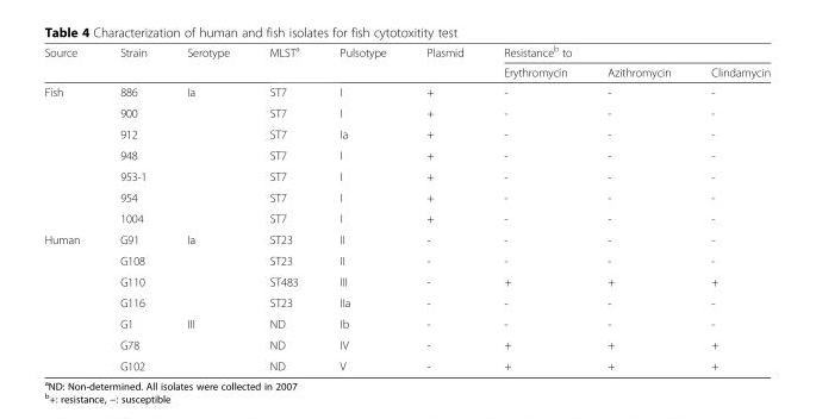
<table><thead><tr><td rowspan="2">Source</td><td rowspan="2">Strain</td><td rowspan="2">Serotype</td><td rowspan="2">MLST<sup>a</sup></td><td rowspan="2">Pulsotype</td><td rowspan="2">Plasmid</td><td colspan="3">Resistance<sup>b</sup> to</td></tr><tr><td>Erythromycin</td><td>Azithromycin</td><td>Clindamycin</td></tr></thead><tbody><tr><td rowspan="7">Fish</td><td>886</td><td rowspan="7">Ia</td><td>ST7</td><td>I</td><td>+</td><td>-</td><td>-</td><td>-</td></tr><tr><td>900</td><td>ST7</td><td>I</td><td>+</td><td>-</td><td>-</td><td>-</td></tr><tr><td>912</td><td>ST7</td><td>Ia</td><td>+</td><td>-</td><td>-</td><td>-</td></tr><tr><td>948</td><td>ST7</td><td>I</td><td>+</td><td>-</td><td>-</td><td>-</td></tr><tr><td>953-1</td><td>ST7</td><td>I</td><td>+</td><td>-</td><td>-</td><td>-</td></tr><tr><td>954</td><td>ST7</td><td>I</td><td>+</td><td>-</td><td>-</td><td>-</td></tr><tr><td>1004</td><td>ST7</td><td>I</td><td>+</td><td>-</td><td>-</td><td>-</td></tr><tr><td rowspan="7">Human</td><td>G91</td><td rowspan="4">Ia</td><td>ST23</td><td>II</td><td>-</td><td>-</td><td>-</td><td>-</td></tr><tr><td>G108</td><td>ST23</td><td>II</td><td>-</td><td>-</td><td>-</td><td>-</td></tr><tr><td>G110</td><td>ST483</td><td>III</td><td>-</td><td>+</td><td>+</td><td>+</td></tr><tr><td>G116</td><td>ST23</td><td>IIa</td><td>-</td><td>-</td><td>-</td><td>-</td></tr><tr><td>G1</td><td rowspan="3">III</td><td>ND</td><td>Ib</td><td>-</td><td>-</td><td>-</td><td>-</td></tr><tr><td>G78</td><td>ND</td><td>IV</td><td>-</td><td>+</td><td>+</td><td>+</td></tr><tr><td>G102</td><td>ND</td><td>V</td><td>-</td><td>+</td><td>+</td><td>+</td></tr></tbody></table>